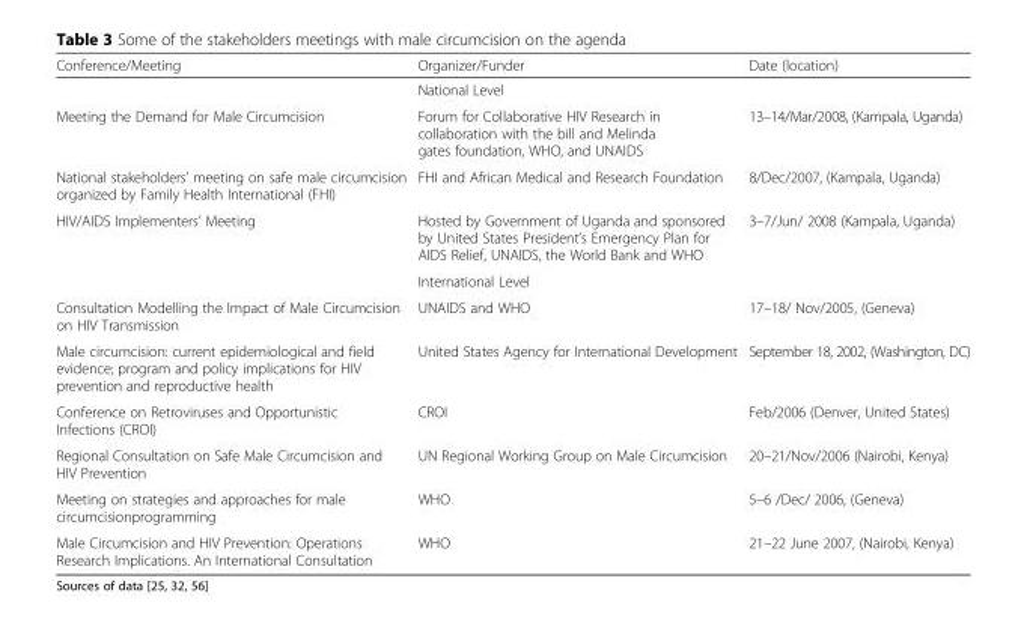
<table><thead><tr><td>Conference/Meeting</td><td>Organizer/Funder</td><td>Date (location)</td></tr></thead><tbody><tr><td></td><td>National Level</td><td></td></tr><tr><td>Meeting the Demand for Male Circumcision</td><td>Forum for Collaborative HIV Research in collaboration with the bill and Melinda gates foundation, WHO, and UNAIDS</td><td>13–14/Mar/2008, (Kampala, Uganda)</td></tr><tr><td>National stakeholders’ meeting on safe male circumcision organized by Family Health International (FHI)</td><td>FHI and African Medical and Research Foundation</td><td>8/Dec/2007, (Kampala, Uganda)</td></tr><tr><td rowspan="2">HIV/AIDS Implementers’ Meeting</td><td>Hosted by Government of Uganda and sponsored by United States President’s Emergency Plan for AIDS Relief, UNAIDS, the World Bank and WHO</td><td>3–7/Jun/ 2008 (Kampala, Uganda)</td></tr><tr><td>International Level</td><td></td></tr><tr><td>Consultation Modelling the Impact of Male Circumcision on HIV Transmission</td><td>UNAIDS and WHO</td><td>17–18/ Nov/2005, (Geneva)</td></tr><tr><td>Male circumcision: current epidemiological and field evidence; program and policy implications for HIV prevention and reproductive health</td><td>United States Agency for International Development</td><td>September 18, 2002, (Washington, DC)</td></tr><tr><td>Conference on Retroviruses and Opportunistic Infections (CROI)</td><td>CROI</td><td>Feb/2006 (Denver, United States)</td></tr><tr><td>Regional Consultation on Safe Male Circumcision and HIV Prevention</td><td>UN Regional Working Group on Male Circumcision</td><td>20–21/Nov/2006 (Nairobi, Kenya)</td></tr><tr><td>Meeting on strategies and approaches for male circumcisionprogramming</td><td>WHO</td><td>5–6 /Dec/ 2006, (Geneva)</td></tr><tr><td>Male Circumcision and HIV Prevention: Operations Research Implications. An International Consultation</td><td>WHO</td><td>21–22 June 2007, (Nairobi, Kenya)</td></tr></tbody></table>